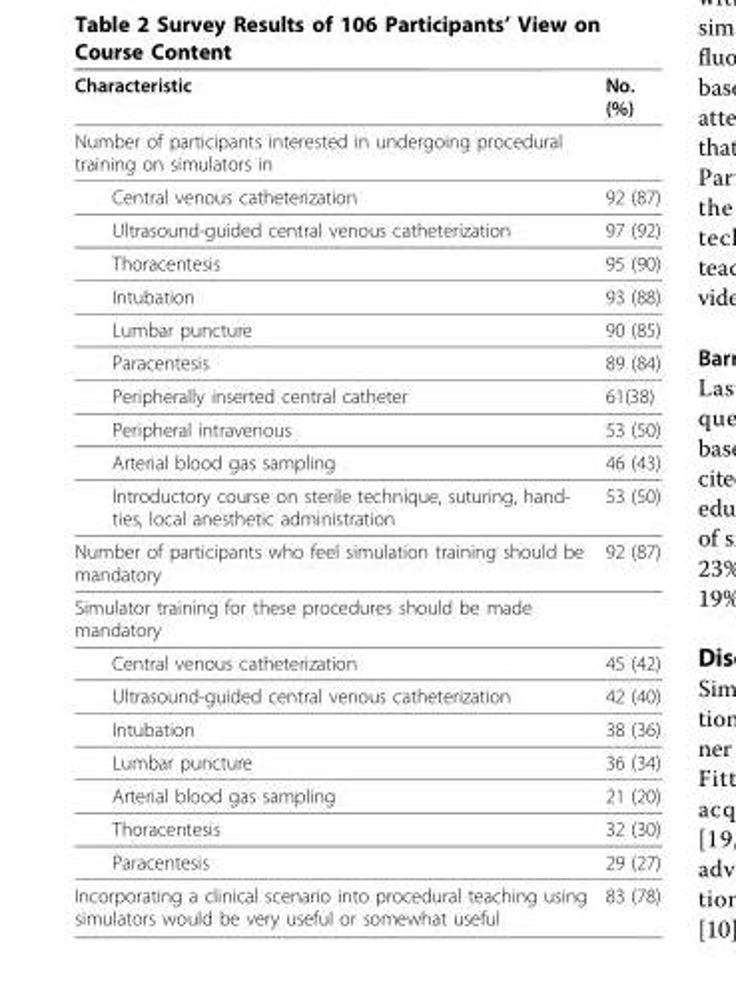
<table><thead><tr><td>Characteristic</td><td>No. (%)</td></tr></thead><tbody><tr><td colspan="2">Number of participants interested in undergoing procedural training on simulators in</td></tr><tr><td>Central venous catheterization</td><td>92 (87)</td></tr><tr><td>Ultrasound-guided central venous catheterization</td><td>97 (92)</td></tr><tr><td>Thoracentesis</td><td>95 (90)</td></tr><tr><td>Intubation</td><td>93 (88)</td></tr><tr><td>Lumbar puncture</td><td>90 (85)</td></tr><tr><td>Paracentesis</td><td>89 (84)</td></tr><tr><td>Peripherally inserted central catheter</td><td>61(38)</td></tr><tr><td>Peripheral intravenous</td><td>53 (50)</td></tr><tr><td>Arterial blood gas sampling</td><td>46 (43)</td></tr><tr><td>Introductory course on sterile technique, suturing, hand- ties, local anesthetic administration</td><td>53 (50)</td></tr><tr><td>Number of participants who feel simulation training should be mandatory</td><td>92 (87)</td></tr><tr><td colspan="2">Simulator training for these procedures should be made mandatory</td></tr><tr><td>Central venous catheterization</td><td>45 (42)</td></tr><tr><td>Ultrasound-guided central venous catheterization</td><td>42 (40)</td></tr><tr><td>Intubation</td><td>38 (36)</td></tr><tr><td>Lumbar puncture</td><td>36 (34)</td></tr><tr><td>Arterial blood gas sampling</td><td>21 (20)</td></tr><tr><td>Thoracentesis</td><td>32 (30)</td></tr><tr><td>Paracentesis</td><td>29 (27)</td></tr><tr><td>Incorporating a clinical scenario into procedural teaching using simulators would be very useful or somewhat useful</td><td>83 (78)</td></tr></tbody></table>